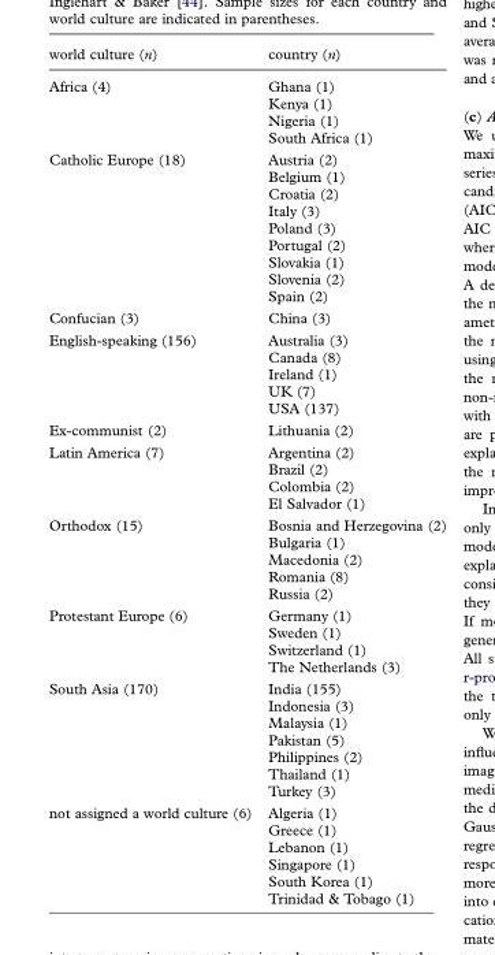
<table><thead><tr><td>world culture (n)</td><td>country (n)</td></tr></thead><tbody><tr><td rowspan="4">Africa (4)</td><td>Ghana (1)</td></tr><tr><td>Kenya (1)</td></tr><tr><td>Nigeria (1)</td></tr><tr><td>South Africa (1)</td></tr><tr><td rowspan="9">Catholic Europe (18)</td><td>Austria (2)</td></tr><tr><td>Belgium (1)</td></tr><tr><td>Croatia (2)</td></tr><tr><td>Italy (3)</td></tr><tr><td>Poland (3)</td></tr><tr><td>Portugal (2)</td></tr><tr><td>Slovakia (1)</td></tr><tr><td>Slovenia (2)</td></tr><tr><td>Spain (2)</td></tr><tr><td>Confucian (3)</td><td>China (3)</td></tr><tr><td rowspan="5">English-speaking (156)</td><td>Australia (3)</td></tr><tr><td>Canada (8)</td></tr><tr><td>Ireland (1)</td></tr><tr><td>UK (7)</td></tr><tr><td>USA (137)</td></tr><tr><td>Ex-communist (2)</td><td>Lithuania (2)</td></tr><tr><td rowspan="4">Latin America (7)</td><td>Argentina (2)</td></tr><tr><td>Brazil (2)</td></tr><tr><td>Colombia (2)</td></tr><tr><td>El Salvador (1)</td></tr><tr><td rowspan="5">Orthodox (15)</td><td>Bosnia and Herzegovina (2)</td></tr><tr><td>Bulgaria (1)</td></tr><tr><td>Macedonia (2)</td></tr><tr><td>Romania (8)</td></tr><tr><td>Russia (2)</td></tr><tr><td rowspan="4">Protestant Europe (6)</td><td>Germany (1)</td></tr><tr><td>Sweden (1)</td></tr><tr><td>Switzerland (1)</td></tr><tr><td>The Netherlands (3)</td></tr><tr><td rowspan="7">South Asia (170)</td><td>India (155)</td></tr><tr><td>Indonesia (3)</td></tr><tr><td>Malaysia (1)</td></tr><tr><td>Pakistan (5)</td></tr><tr><td>Philippines (2)</td></tr><tr><td>Thailand (1)</td></tr><tr><td>Turkey (3)</td></tr><tr><td rowspan="6">not assigned a world culture (6)</td><td>Algeria (1)</td></tr><tr><td>Greece (1)</td></tr><tr><td>Lebanon (1)</td></tr><tr><td>Singapore (1)</td></tr><tr><td>South Korea (1)</td></tr><tr><td>Trinidad &amp; Tobago (1)</td></tr></tbody></table>